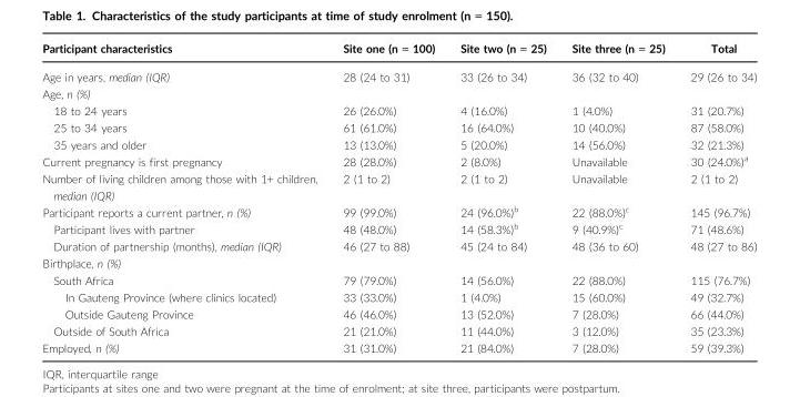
<table><thead><tr><td>Participant characteristics</td><td>Site one (n = 100)</td><td>Site two (n = 25)</td><td>Site three (n = 25)</td><td>Total</td></tr></thead><tbody><tr><td>Age in years, median (IQR)</td><td>28 (24 to 31)</td><td>33 (26 to 34)</td><td>36 (32 to 40)</td><td>29 (26 to 34)</td></tr><tr><td colspan="5">Age, n (%)</td></tr><tr><td>18 to 24 years</td><td>26 (26.0%)</td><td>4 (16.0%)</td><td>1 (4.0%)</td><td>31 (20.7%)</td></tr><tr><td>25 to 34 years</td><td>61 (61.0%)</td><td>16 (64.0%)</td><td>10 (40.0%)</td><td>87 (58.0%)</td></tr><tr><td>35 years and older</td><td>13 (13.0%)</td><td>5 (20.0%)</td><td>14 (56.0%)</td><td>32 (21.3%)</td></tr><tr><td>Current pregnancy is first pregnancy</td><td>28 (28.0%)</td><td>2 (8.0%)</td><td>Unavailable</td><td>30 (24.0%)<sup>a</sup></td></tr><tr><td>Number of living children among those with 1+ children, median (IQR)</td><td>2 (1 to 2)</td><td>2 (1 to 2)</td><td>Unavailable</td><td>2 (1 to 2)</td></tr><tr><td>Participant reports a current partner, n (%)</td><td>99 (99.0%)</td><td>24 (96.0%)<sup>b</sup></td><td>22 (88.0%)<sup>c</sup></td><td>145 (96.7%)</td></tr><tr><td>Participant lives with partner</td><td>48 (48.0%)</td><td>14 (58.3%)<sup>b</sup></td><td>9 (40.9%)<sup>c</sup></td><td>71 (48.6%)</td></tr><tr><td>Duration of partnership (months), median (IQR)</td><td>46 (27 to 88)</td><td>45 (24 to 84)</td><td>48 (36 to 60)</td><td>48 (27 to 86)</td></tr><tr><td colspan="5">Birthplace, n (%)</td></tr><tr><td>South Africa</td><td>79 (79.0%)</td><td>14 (56.0%)</td><td>22 (88.0%)</td><td>115 (76.7%)</td></tr><tr><td>In Gauteng Province (where clinics located)</td><td>33 (33.0%)</td><td>1 (4.0%)</td><td>15 (60.0%)</td><td>49 (32.7%)</td></tr><tr><td>Outside Gauteng Province</td><td>46 (46.0%)</td><td>13 (52.0%)</td><td>7 (28.0%)</td><td>66 (44.0%)</td></tr><tr><td>Outside of South Africa</td><td>21 (21.0%)</td><td>11 (44.0%)</td><td>3 (12.0%)</td><td>35 (23.3%)</td></tr><tr><td>Employed, n (%)</td><td>31 (31.0%)</td><td>21 (84.0%)</td><td>7 (28.0%)</td><td>59 (39.3%)</td></tr></tbody></table>